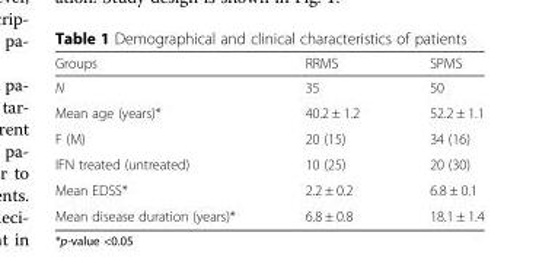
<table><thead><tr><td>Groups</td><td>RRMS</td><td>SPMS</td></tr></thead><tbody><tr><td>N</td><td>35</td><td>50</td></tr><tr><td>Mean age (years)*</td><td>40.2 ± 1.2</td><td>52.2 ± 1.1</td></tr><tr><td>F (M)</td><td>20 (15)</td><td>34 (16)</td></tr><tr><td>IFN treated (untreated)</td><td>10 (25)</td><td>20 (30)</td></tr><tr><td>Mean EDSS*</td><td>2.2 ± 0.2</td><td>6.8 ± 0.1</td></tr><tr><td>Mean disease duration (years)*</td><td>6.8 ± 0.8</td><td>18.1 ± 1.4</td></tr></tbody></table>